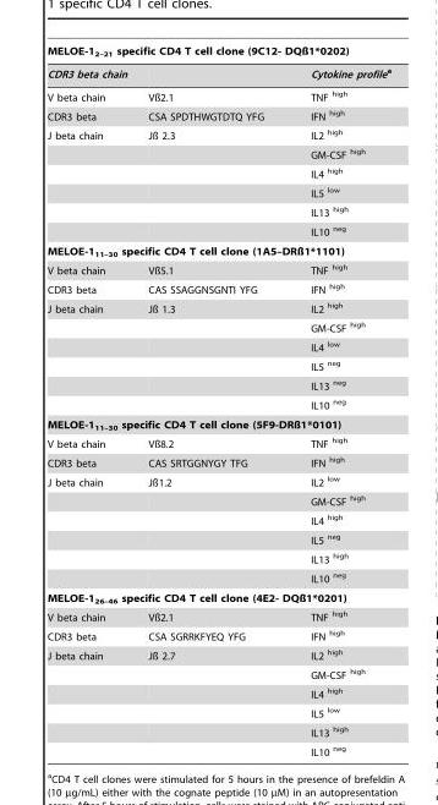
<table><thead><tr><td colspan="3">MELOE-1<sub>2–21</sub> specific CD4 T cell clone (9C12- DQß1*0202)</td></tr><tr><td>CDR3 beta chain</td><td></td><td>Cytokine profilea</td></tr></thead><tbody><tr><td>V beta chain</td><td>Vß2.1</td><td>TNF <sup>high</sup></td></tr><tr><td>CDR3 beta</td><td>CSA SPDTHWGTDTQ YFG</td><td>IFN <sup>high</sup></td></tr><tr><td rowspan="6">J beta chain</td><td>Jß 2.3</td><td>IL2 <sup>high</sup></td></tr><tr><td></td><td>GM-CSF <sup>high</sup></td></tr><tr><td></td><td>IL4 <sup>high</sup></td></tr><tr><td></td><td>IL5 <sup>low</sup></td></tr><tr><td></td><td>IL13 <sup>high</sup></td></tr><tr><td></td><td>IL10 <sup>neg</sup></td></tr><tr><td colspan="3">MELOE-1<sub>11–30</sub> specific CD4 T cell clone (1A5–DRß1*1101)</td></tr><tr><td>V beta chain</td><td>Vß5.1</td><td>TNF <sup>high</sup></td></tr><tr><td>CDR3 beta</td><td>CAS SSAGGNSGNTI YFG</td><td>IFN <sup>high</sup></td></tr><tr><td rowspan="6">J beta chain</td><td>Jß 1.3</td><td>IL2 <sup>high</sup></td></tr><tr><td></td><td>GM-CSF <sup>high</sup></td></tr><tr><td></td><td>IL4 <sup>low</sup></td></tr><tr><td></td><td>IL5 <sup>neg</sup></td></tr><tr><td></td><td>IL13 <sup>neg</sup></td></tr><tr><td></td><td>IL10 <sup>neg</sup></td></tr><tr><td colspan="3">MELOE-1<sub>11–30</sub> specific CD4 T cell clone (5F9-DRß1*0101)</td></tr><tr><td>V beta chain</td><td>Vß8.2</td><td>TNF <sup>high</sup></td></tr><tr><td>CDR3 beta</td><td>CAS SRTGGNYGY TFG</td><td>IFN <sup>high</sup></td></tr><tr><td rowspan="6">J beta chain</td><td>Jß1.2</td><td>IL2 <sup>low</sup></td></tr><tr><td></td><td>GM-CSF <sup>high</sup></td></tr><tr><td></td><td>IL4 <sup>high</sup></td></tr><tr><td></td><td>IL5 <sup>neg</sup></td></tr><tr><td></td><td>IL13 <sup>high</sup></td></tr><tr><td></td><td>IL10 <sup>neg</sup></td></tr><tr><td colspan="3">MELOE-1<sub>26–46</sub> specific CD4 T cell clone (4E2- DQß1*0201)</td></tr><tr><td>V beta chain</td><td>Vß2.1</td><td>TNF <sup>high</sup></td></tr><tr><td>CDR3 beta</td><td>CSA SGRRKFYEQ YFG</td><td>IFN <sup>high</sup></td></tr><tr><td rowspan="6">J beta chain</td><td>Jß 2.7</td><td>IL2 <sup>high</sup></td></tr><tr><td></td><td>GM-CSF <sup>high</sup></td></tr><tr><td></td><td>IL4 <sup>high</sup></td></tr><tr><td></td><td>IL5 <sup>low</sup></td></tr><tr><td></td><td>IL13 <sup>high</sup></td></tr><tr><td></td><td>IL10 <sup>neg</sup></td></tr></tbody></table>